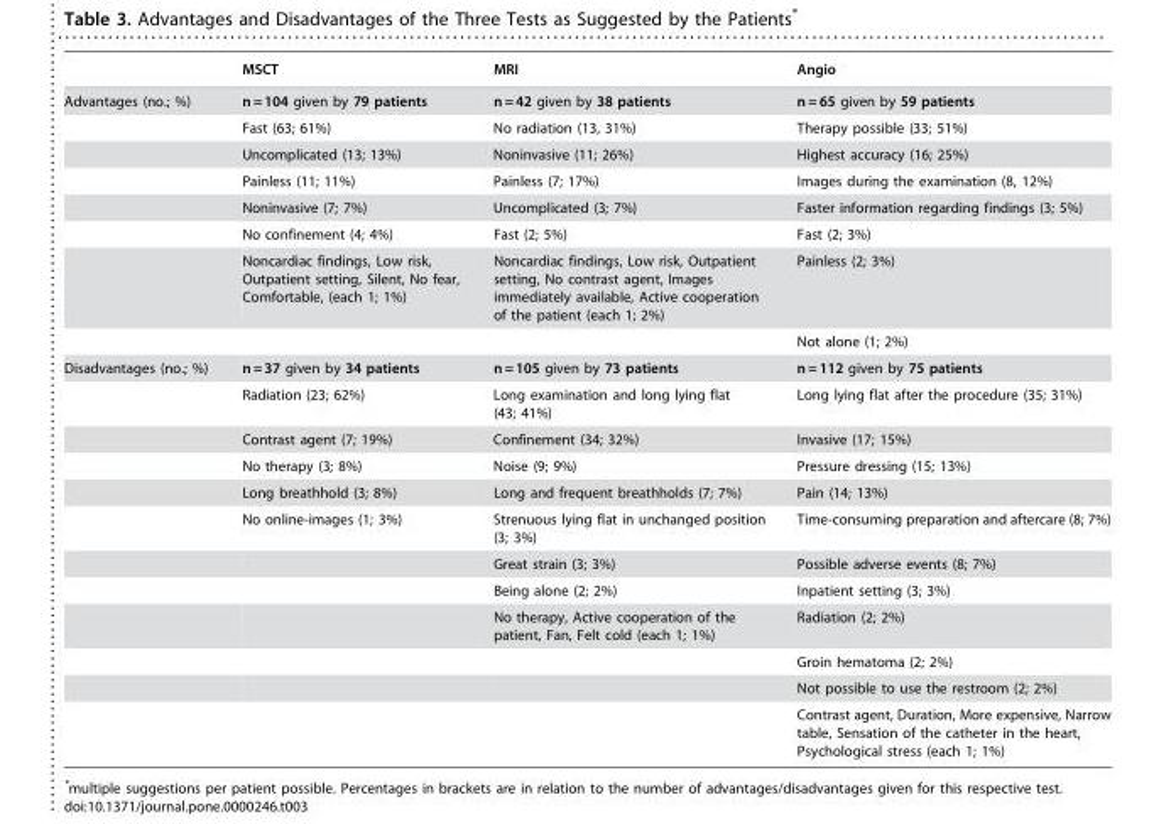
<table><thead><tr><td></td><td>MSCT</td><td>MRI</td><td>Angio</td></tr></thead><tbody><tr><td rowspan="8">Advantages (no.; %)</td><td>n = 104 given by 79 patients</td><td>n = 42 given by 38 patients</td><td>n = 65 given by 59 patients</td></tr><tr><td>Fast (63; 61%)</td><td>No radiation (13, 31%)</td><td>Therapy possible (33; 51%)</td></tr><tr><td>Uncomplicated (13; 13%)</td><td>Noninvasive (11; 26%)</td><td>Highest accuracy (16; 25%)</td></tr><tr><td>Painless (11; 11%)</td><td>Painless (7; 17%)</td><td>Images during the examination (8, 12%)</td></tr><tr><td>Noninvasive (7; 7%)</td><td>Uncomplicated (3; 7%)</td><td>Faster information regarding findings (3; 5%)</td></tr><tr><td>No confinement (4; 4%)</td><td>Fast (2; 5%)</td><td>Fast (2; 3%)</td></tr><tr><td>Noncardiac findings, Low risk, Outpatient setting, Silent, No fear, Comfortable, (each 1; 1%)</td><td>Noncardiac findings, Low risk, Outpatient setting, No contrast agent, Images immediately available, Active cooperation of the patient (each 1; 2%)</td><td>Painless (2; 3%)</td></tr><tr><td></td><td></td><td>Not alone (1; 2%)</td></tr><tr><td rowspan="12">Disadvantages (no.; %)</td><td>n = 37 given by 34 patients</td><td>n = 105 given by 73 patients</td><td>n = 112 given by 75 patients</td></tr><tr><td>Radiation (23; 62%)</td><td>Long examination and long lying flat (43; 41%)</td><td>Long lying flat after the procedure (35; 31%)</td></tr><tr><td>Contrast agent (7; 19%)</td><td>Confinement (34; 32%)</td><td>Invasive (17; 15%)</td></tr><tr><td>No therapy (3; 8%)</td><td>Noise (9; 9%)</td><td>Pressure dressing (15; 13%)</td></tr><tr><td>Long breathhold (3; 8%)</td><td>Long and frequent breathholds (7; 7%)</td><td>Pain (14; 13%)</td></tr><tr><td>No online-images (1; 3%)</td><td>Strenuous lying flat in unchanged position (3; 3%)</td><td>Time-consuming preparation and aftercare (8; 7%)</td></tr><tr><td></td><td>Great strain (3; 3%)</td><td>Possible adverse events (8; 7%)</td></tr><tr><td></td><td>Being alone (2; 2%)</td><td>Inpatient setting (3; 3%)</td></tr><tr><td></td><td>No therapy, Active cooperation of the patient, Fan, Felt cold (each 1; 1%)</td><td>Radiation (2; 2%)</td></tr><tr><td></td><td></td><td>Groin hematoma (2; 2%)</td></tr><tr><td></td><td></td><td>Not possible to use the restroom (2; 2%)</td></tr><tr><td></td><td></td><td>Contrast agent, Duration, More expensive, Narrow table, Sensation of the catheter in the heart, Psychological stress (each 1; 1%)</td></tr></tbody></table>